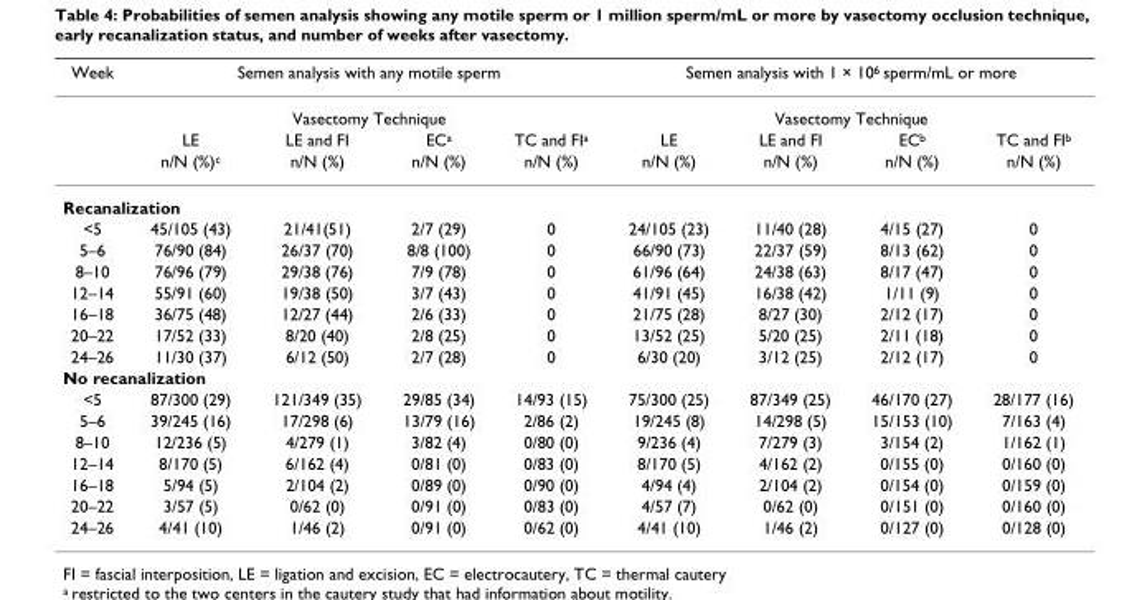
<table><thead><tr><td rowspan="3">Week</td><td rowspan="2" colspan="4">Semen analysis with any motile sperm Vasectomy Technique</td><td rowspan="2" colspan="4">Semen analysis with 1 × 10<sup>6</sup> sperm/mL or more Vasectomy Technique</td></tr><tr></tr><tr><td>LE</td><td>LE and FI</td><td>EC<sup>a</sup></td><td>TC and FI<sup>a</sup></td><td>LE</td><td>LE and FI</td><td>EC<sup>b</sup></td><td>TC and FI<sup>b</sup></td></tr></thead><tbody><tr><td></td><td>n/N (%)<sup>c</sup></td><td>n/N (%)</td><td>n/N (%)</td><td>n/N (%)</td><td>n/N (%)</td><td>n/N (%)</td><td>n/N (%)</td><td>n/N (%)</td></tr><tr><td colspan="9">Recanalization</td></tr><tr><td>&lt;5</td><td>45/105 (43)</td><td>21/41(51)</td><td>2/7 (29)</td><td>0</td><td>24/105 (23)</td><td>11/40 (28)</td><td>4/15 (27)</td><td>0</td></tr><tr><td>5–6</td><td>76/90 (84)</td><td>26/37 (70)</td><td>8/8 (100)</td><td>0</td><td>66/90 (73)</td><td>22/37 (59)</td><td>8/13 (62)</td><td>0</td></tr><tr><td>8–10</td><td>76/96 (79)</td><td>29/38 (76)</td><td>7/9 (78)</td><td>0</td><td>61/96 (64)</td><td>24/38 (63)</td><td>8/17 (47)</td><td>0</td></tr><tr><td>12–14</td><td>55/91 (60)</td><td>19/38 (50)</td><td>3/7 (43)</td><td>0</td><td>41/91 (45)</td><td>16/38 (42)</td><td>1/11 (9)</td><td>0</td></tr><tr><td>16–18</td><td>36/75 (48)</td><td>12/27 (44)</td><td>2/6 (33)</td><td>0</td><td>21/75 (28)</td><td>8/27 (30)</td><td>2/12 (17)</td><td>0</td></tr><tr><td>20–22</td><td>17/52 (33)</td><td>8/20 (40)</td><td>2/8 (25)</td><td>0</td><td>13/52 (25)</td><td>5/20 (25)</td><td>2/11 (18)</td><td>0</td></tr><tr><td>24–26</td><td>11/30 (37)</td><td>6/12 (50)</td><td>2/7 (28)</td><td>0</td><td>6/30 (20)</td><td>3/12 (25)</td><td>2/12 (17)</td><td>0</td></tr><tr><td colspan="9">No recanalization</td></tr><tr><td>&lt;5</td><td>87/300 (29)</td><td>121/349 (35)</td><td>29/85 (34)</td><td>14/93 (15)</td><td>75/300 (25)</td><td>87/349 (25)</td><td>46/170 (27)</td><td>28/177 (16)</td></tr><tr><td>5–6</td><td>39/245 (16)</td><td>17/298 (6)</td><td>13/79 (16)</td><td>2/86 (2)</td><td>19/245 (8)</td><td>14/298 (5)</td><td>15/153 (10)</td><td>7/163 (4)</td></tr><tr><td>8–10</td><td>12/236 (5)</td><td>4/279 (1)</td><td>3/82 (4)</td><td>0/80 (0)</td><td>9/236 (4)</td><td>7/279 (3)</td><td>3/154 (2)</td><td>1/162 (1)</td></tr><tr><td>12–14</td><td>8/170 (5)</td><td>6/162 (4)</td><td>0/81 (0)</td><td>0/83 (0)</td><td>8/170 (5)</td><td>4/162 (2)</td><td>0/155 (0)</td><td>0/160 (0)</td></tr><tr><td>16–18</td><td>5/94 (5)</td><td>2/104 (2)</td><td>0/89 (0)</td><td>0/90 (0)</td><td>4/94 (4)</td><td>2/104 (2)</td><td>0/154 (0)</td><td>0/159 (0)</td></tr><tr><td>20–22</td><td>3/57 (5)</td><td>0/62 (0)</td><td>0/91 (0)</td><td>0/83 (0)</td><td>4/57 (7)</td><td>0/62 (0)</td><td>0/151 (0)</td><td>0/160 (0)</td></tr><tr><td>24–26</td><td>4/41 (10)</td><td>1/46 (2)</td><td>0/91 (0)</td><td>0/62 (0)</td><td>4/41 (10)</td><td>1/46 (2)</td><td>0/127 (0)</td><td>0/128 (0)</td></tr></tbody></table>